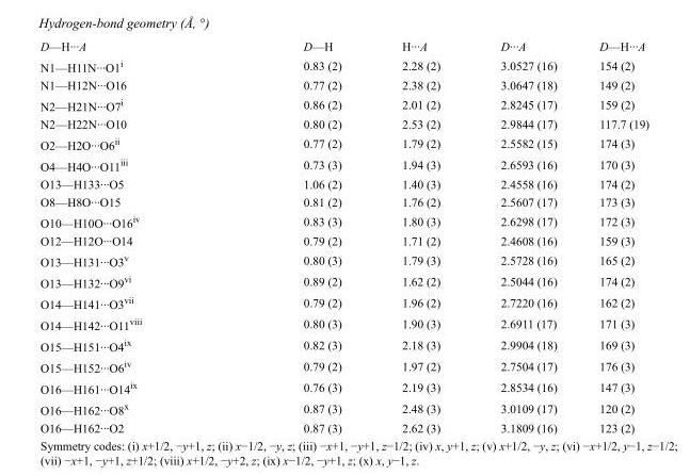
<table><tbody><tr><td>D—H···A</td><td>D—H</td><td>H···A</td><td>D···A</td><td>D—H···A</td></tr><tr><td>N1—H11N···O1<sup>i</sup></td><td>0.83 (2)</td><td>2.28 (2)</td><td>3.0527 (16)</td><td>154 (2)</td></tr><tr><td>N1—H12N···O16</td><td>0.77 (2)</td><td>2.38 (2)</td><td>3.0647 (18)</td><td>149 (2)</td></tr><tr><td>N2—H21N···O7<sup>i</sup></td><td>0.86 (2)</td><td>2.01 (2)</td><td>2.8245 (17)</td><td>159 (2)</td></tr><tr><td>N2—H22N···O10</td><td>0.80 (2)</td><td>2.53 (2)</td><td>2.9844 (17)</td><td>117.7 (19)</td></tr><tr><td>O2—H2O···O6<sup>ii</sup></td><td>0.77 (2)</td><td>1.79 (2)</td><td>2.5582 (15)</td><td>174 (3)</td></tr><tr><td>O4—H4O···O11<sup>iii</sup></td><td>0.73 (3)</td><td>1.94 (3)</td><td>2.6593 (16)</td><td>170 (3)</td></tr><tr><td>O13—H133···O5</td><td>1.06 (2)</td><td>1.40 (3)</td><td>2.4558 (16)</td><td>174 (2)</td></tr><tr><td>O8—H8O···O15</td><td>0.81 (2)</td><td>1.76 (2)</td><td>2.5607 (17)</td><td>173 (3)</td></tr><tr><td>O10—H10O···O16<sup>iv</sup></td><td>0.83 (3)</td><td>1.80 (3)</td><td>2.6298 (17)</td><td>172 (3)</td></tr><tr><td>O12—H12O···O14</td><td>0.79 (2)</td><td>1.71 (2)</td><td>2.4608 (16)</td><td>159 (3)</td></tr><tr><td>O13—H131···O3<sup>v</sup></td><td>0.80 (3)</td><td>1.79 (3)</td><td>2.5728 (16)</td><td>165 (2)</td></tr><tr><td>O13—H132···O9<sup>vi</sup></td><td>0.89 (2)</td><td>1.62 (2)</td><td>2.5044 (16)</td><td>174 (2)</td></tr><tr><td>O14—H141···O3<sup>vii</sup></td><td>0.79 (2)</td><td>1.96 (2)</td><td>2.7220 (16)</td><td>162 (2)</td></tr><tr><td>O14—H142···O11<sup>viii</sup></td><td>0.80 (3)</td><td>1.90 (3)</td><td>2.6911 (17)</td><td>171 (3)</td></tr><tr><td>O15—H151···O4<sup>ix</sup></td><td>0.82 (3)</td><td>2.18 (3)</td><td>2.9904 (18)</td><td>169 (3)</td></tr><tr><td>O15—H152···O6<sup>iv</sup></td><td>0.79 (2)</td><td>1.97 (2)</td><td>2.7504 (17)</td><td>176 (3)</td></tr><tr><td>O16—H161···O14<sup>ix</sup></td><td>0.76 (3)</td><td>2.19 (3)</td><td>2.8534 (16)</td><td>147 (3)</td></tr><tr><td>O16—H162···O8<sup>x</sup></td><td>0.87 (3)</td><td>2.48 (3)</td><td>3.0109 (17)</td><td>120 (2)</td></tr><tr><td>O16—H162···O2</td><td>0.87 (3)</td><td>2.62 (3)</td><td>3.1809 (16)</td><td>123 (2)</td></tr></tbody></table>